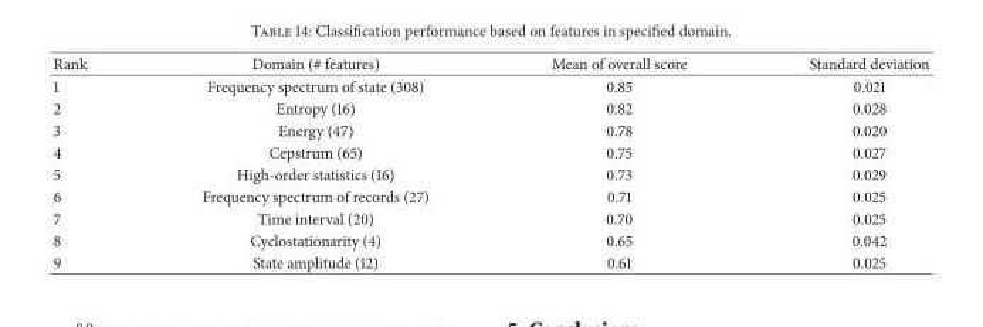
<table><thead><tr><td>Rank</td><td>Domain (# features)</td><td>Mean of overall score</td><td>Standard deviation</td></tr></thead><tbody><tr><td>1</td><td>Frequency spectrum of state (308)</td><td>0.85</td><td>0.021</td></tr><tr><td>2</td><td>Entropy (16)</td><td>0.82</td><td>0.028</td></tr><tr><td>3</td><td>Energy (47)</td><td>0.78</td><td>0.020</td></tr><tr><td>4</td><td>Cepstrum (65)</td><td>0.75</td><td>0.027</td></tr><tr><td>5</td><td>High-order statistics (16)</td><td>0.73</td><td>0.029</td></tr><tr><td>6</td><td>Frequency spectrum of records (27)</td><td>0.71</td><td>0.025</td></tr><tr><td>7</td><td>Time interval (20)</td><td>0.70</td><td>0.025</td></tr><tr><td>8</td><td>Cyclostationarity (4)</td><td>0.65</td><td>0.042</td></tr><tr><td>9</td><td>State amplitude (12)</td><td>0.61</td><td>0.025</td></tr></tbody></table>